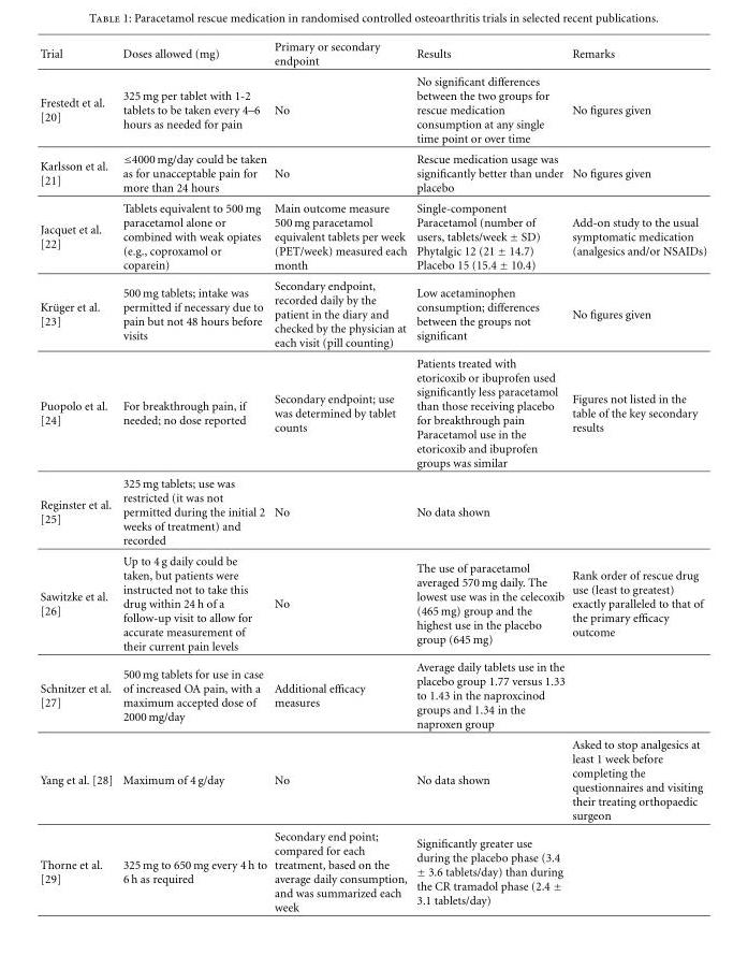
<table><thead><tr><td>Trial</td><td>Doses allowed (mg)</td><td>Primary or secondary endpoint</td><td>Results</td><td>Remarks</td></tr></thead><tbody><tr><td>Frestedt et al. [20]</td><td>325 mg per tablet with 1-2 tablets to be taken every 4–6 hours as needed for pain</td><td>No</td><td>No significant differences between the two groups for rescue medication consumption at any single time point or over time</td><td>No figures given</td></tr><tr><td>Karlsson et al. [21]</td><td>≤4000 mg/day could be taken as for unacceptable pain for more than 24 hours</td><td>No</td><td>Rescue medication usage was significantly better than under placebo</td><td>No figures given</td></tr><tr><td>Jacquet et al. [22]</td><td>Tablets equivalent to 500 mg paracetamol alone or combined with weak opiates (e.g., coproxamol or coparein)</td><td>Main outcome measure 500 mg paracetamol equivalent tablets per week (PET/week) measured each month</td><td>Single-component Paracetamol (number of users, tablets/week ± SD) Phytalgic 12 (21 ± 14.7) Placebo 15 (15.4 ± 10.4)</td><td>Add-on study to the usual symptomatic medication (analgesics and/or NSAIDs)</td></tr><tr><td>Kr¨uger et al. [23]</td><td>500 mg tablets; intake was permitted if necessary due to pain but not 48 hours before visits</td><td>Secondary endpoint, recorded daily by the patient in the diary and checked by the physician at each visit (pill counting)</td><td>Low acetaminophen consumption; differences between the groups not significant</td><td>No figures given</td></tr><tr><td>Puopolo et al. [24]</td><td>For breakthrough pain, if needed; no dose reported</td><td>Secondary endpoint; use was determined by tablet counts</td><td>Patients treated with etoricoxib or ibuprofen used significantly less paracetamol than those receiving placebo for breakthrough pain Paracetamol use in the etoricoxib and ibuprofen groups was similar</td><td>Figures not listed in the table of the key secondary results</td></tr><tr><td>Reginster et al. [25]</td><td>325 mg tablets; use was restricted (it was not permitted during the initial 2 weeks of treatment) and recorded</td><td>No</td><td>No data shown</td><td></td></tr><tr><td>Sawitzke et al. [26]</td><td>Up to 4 g daily could be taken, but patients were instructed not to take this drug within 24 h of a follow-up visit to allow for accurate measurement of their current pain levels</td><td>No</td><td>The use of paracetamol averaged 570 mg daily. The lowest use was in the celecoxib (465 mg) group and the highest use in the placebo group (645 mg)</td><td>Rank order of rescue drug use (least to greatest) exactly paralleled to that of the primary efficacy outcome</td></tr><tr><td>Schnitzer et al. [27]</td><td>500 mg tablets for use in case of increased OA pain, with a maximum accepted dose of 2000 mg/day</td><td>Additional efficacy measures</td><td>Average daily tablets use in the placebo group 1.77 versus 1.33 to 1.43 in the naproxcinod groups and 1.34 in the naproxen group</td><td></td></tr><tr><td>Yang et al. [28]</td><td>Maximum of 4 g/day</td><td>No</td><td>No data shown</td><td>Asked to stop analgesics at least 1 week before completing the questionnaires and visiting their treating orthopaedic surgeon</td></tr><tr><td>Thorne et al. [29]</td><td>325 mg to 650 mg every 4 h to 6 h as required</td><td>Secondary end point; compared for each treatment, based on the average daily consumption, and was summarized each week</td><td>Significantly greater use during the placebo phase (3.4 ± 3.6 tablets/day) than during the CR tramadol phase (2.4 ± 3.1 tablets/day)</td><td></td></tr></tbody></table>